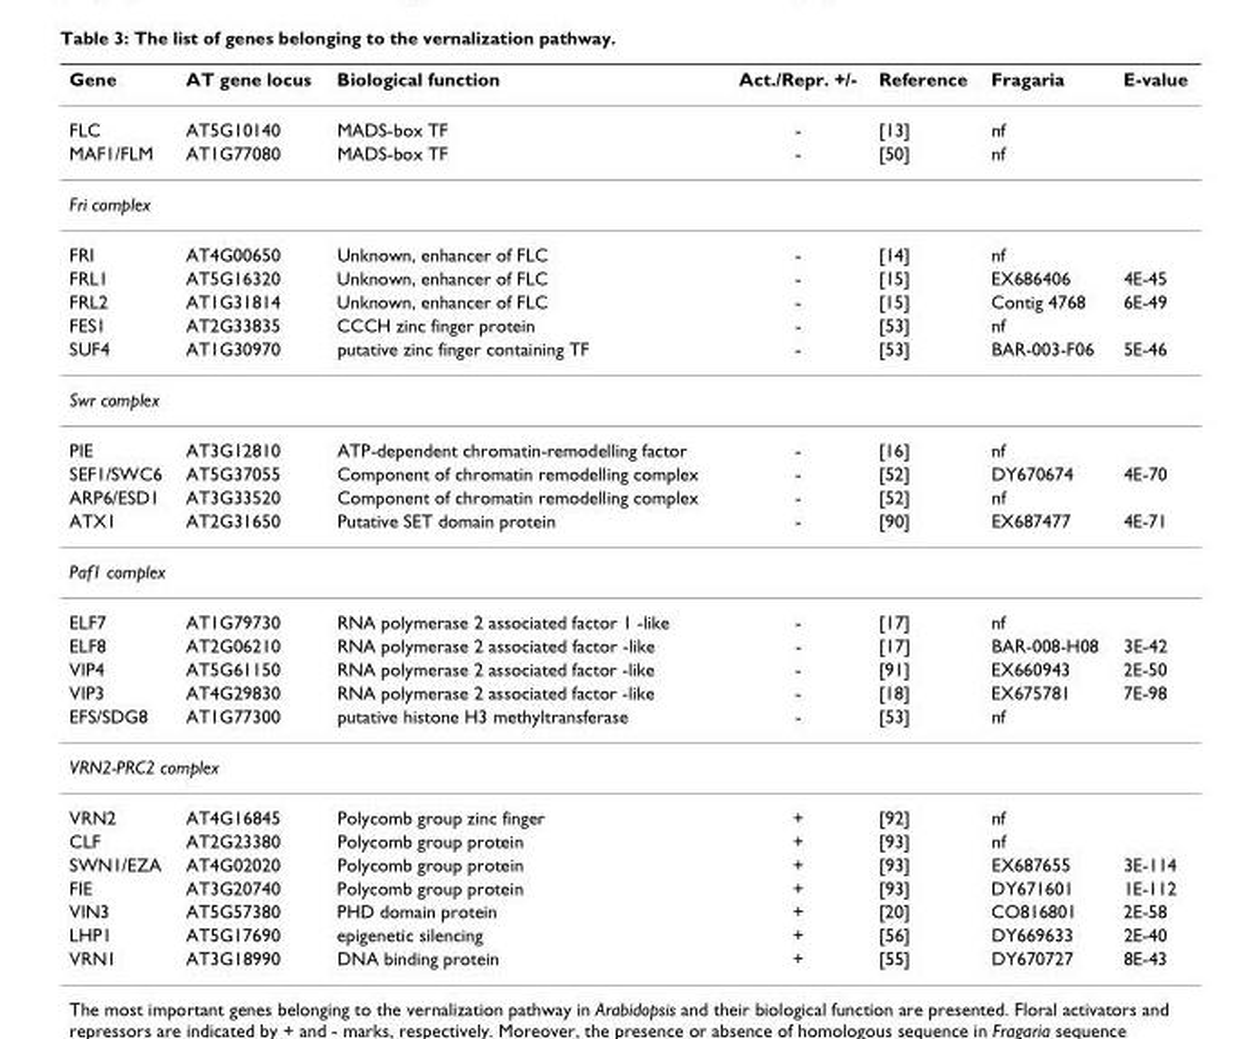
<table><thead><tr><td>Gene</td><td>AT gene locus</td><td>Biological function</td><td>Act./Repr. +/-</td><td>Reference</td><td>Fragaria</td><td>E-value</td></tr></thead><tbody><tr><td>FLC</td><td>AT5G10140</td><td>MADS-box TF</td><td>-</td><td>[13]</td><td>nf</td><td></td></tr><tr><td>MAF1/FLM</td><td>AT1G77080</td><td>MADS-box TF</td><td>-</td><td>[50]</td><td>nf</td><td></td></tr><tr><td colspan="7">Fri complex</td></tr><tr><td>FRI</td><td>AT4G00650</td><td>Unknown, enhancer of FLC</td><td>-</td><td>[14]</td><td>nf</td><td></td></tr><tr><td>FRL1</td><td>AT5G16320</td><td>Unknown, enhancer of FLC</td><td>-</td><td>[15]</td><td>EX686406</td><td>4E-45</td></tr><tr><td>FRL2</td><td>AT1G31814</td><td>Unknown, enhancer of FLC</td><td>-</td><td>[15]</td><td>Contig 4768</td><td>6E-49</td></tr><tr><td>FES1</td><td>AT2G33835</td><td>CCCH zinc finger protein</td><td>-</td><td>[53]</td><td>nf</td><td></td></tr><tr><td>SUF4</td><td>AT1G30970</td><td>putative zinc finger containing TF</td><td>-</td><td>[53]</td><td>BAR-003-F06</td><td>5E-46</td></tr><tr><td colspan="7">Swr complex</td></tr><tr><td>PIE</td><td>AT3G12810</td><td>ATP-dependent chromatin-remodelling factor</td><td>-</td><td>[16]</td><td>nf</td><td></td></tr><tr><td>SEF1/SWC6</td><td>AT5G37055</td><td>Component of chromatin remodelling complex</td><td>-</td><td>[52]</td><td>DY670674</td><td>4E-70</td></tr><tr><td>ARP6/ESD1</td><td>AT3G33520</td><td>Component of chromatin remodelling complex</td><td>-</td><td>[52]</td><td>nf</td><td></td></tr><tr><td>ATX1</td><td>AT2G31650</td><td>Putative SET domain protein</td><td>-</td><td>[90]</td><td>EX687477</td><td>4E-71</td></tr><tr><td colspan="7">Paf1 complex</td></tr><tr><td>ELF7</td><td>AT1G79730</td><td>RNA polymerase 2 associated factor 1 -like</td><td>-</td><td>[17]</td><td>nf</td><td></td></tr><tr><td>ELF8</td><td>AT2G06210</td><td>RNA polymerase 2 associated factor -like</td><td>-</td><td>[17]</td><td>BAR-008-H08</td><td>3E-42</td></tr><tr><td>VIP4</td><td>AT5G61150</td><td>RNA polymerase 2 associated factor -like</td><td>-</td><td>[91]</td><td>EX660943</td><td>2E-50</td></tr><tr><td>VIP3</td><td>AT4G29830</td><td>RNA polymerase 2 associated factor -like</td><td>-</td><td>[18]</td><td>EX675781</td><td>7E-98</td></tr><tr><td>EFS/SDG8</td><td>AT1G77300</td><td>putative histone H3 methyltransferase</td><td>-</td><td>[53]</td><td>nf</td><td></td></tr><tr><td colspan="7">VRN2-PRC2 complex</td></tr><tr><td>VRN2</td><td>AT4G16845</td><td>Polycomb group zinc finger</td><td>+</td><td>[92]</td><td>nf</td><td></td></tr><tr><td>CLF</td><td>AT2G23380</td><td>Polycomb group protein</td><td>+</td><td>[93]</td><td>nf</td><td></td></tr><tr><td>SWN1/EZA</td><td>AT4G02020</td><td>Polycomb group protein</td><td>+</td><td>[93]</td><td>EX687655</td><td>3E-114</td></tr><tr><td>FIE</td><td>AT3G20740</td><td>Polycomb group protein</td><td>+</td><td>[93]</td><td>DY671601</td><td>1E-112</td></tr><tr><td>VIN3</td><td>AT5G57380</td><td>PHD domain protein</td><td>+</td><td>[20]</td><td>CO816801</td><td>2E-58</td></tr><tr><td>LHP1</td><td>AT5G17690</td><td>epigenetic silencing</td><td>+</td><td>[56]</td><td>DY669633</td><td>2E-40</td></tr><tr><td>VRN1</td><td>AT3G18990</td><td>DNA binding protein</td><td>+</td><td>[55]</td><td>DY670727</td><td>8E-43</td></tr></tbody></table>